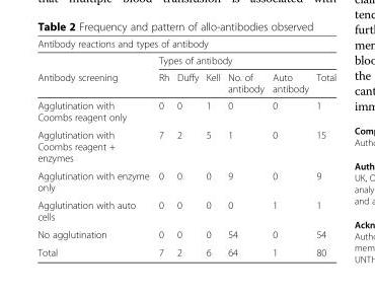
<table><thead><tr><td colspan="7">Antibody reactions and types of antibody</td></tr><tr><td rowspan="2">Antibody screening</td><td colspan="6">Types of antibody</td></tr><tr><td>Rh</td><td>Duffy</td><td>Kell</td><td>No. of antibody</td><td>Auto antibody</td><td>Total</td></tr></thead><tbody><tr><td>Agglutination with Coombs reagent only</td><td>0</td><td>0</td><td>1</td><td>0</td><td>0</td><td>1</td></tr><tr><td>Agglutination with Coombs reagent + enzymes</td><td>7</td><td>2</td><td>5</td><td>1</td><td>0</td><td>15</td></tr><tr><td>Agglutination with enzyme only</td><td>0</td><td>0</td><td>0</td><td>9</td><td>0</td><td>9</td></tr><tr><td>Agglutination with auto cells</td><td>0</td><td>0</td><td>0</td><td>0</td><td>1</td><td>1</td></tr><tr><td>No agglutination</td><td>0</td><td>0</td><td>0</td><td>54</td><td>0</td><td>54</td></tr><tr><td>Total</td><td>7</td><td>2</td><td>6</td><td>64</td><td>1</td><td>80</td></tr></tbody></table>